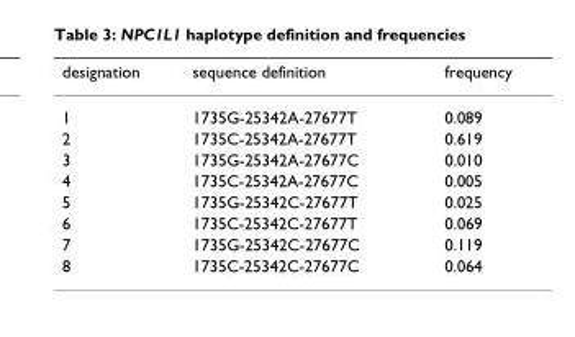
<table><thead><tr><td>designation</td><td>sequence definition</td><td>frequency</td></tr></thead><tbody><tr><td>1</td><td>1735G-25342A-27677T</td><td>0.089</td></tr><tr><td>2</td><td>1735C-25342A-27677T</td><td>0.619</td></tr><tr><td>3</td><td>1735G-25342A-27677C</td><td>0.010</td></tr><tr><td>4</td><td>1735C-25342A-27677C</td><td>0.005</td></tr><tr><td>5</td><td>1735G-25342C-27677T</td><td>0.025</td></tr><tr><td>6</td><td>1735C-25342C-27677T</td><td>0.069</td></tr><tr><td>7</td><td>1735G-25342C-27677C</td><td>0.119</td></tr><tr><td>8</td><td>1735C-25342C-27677C</td><td>0.064</td></tr></tbody></table>